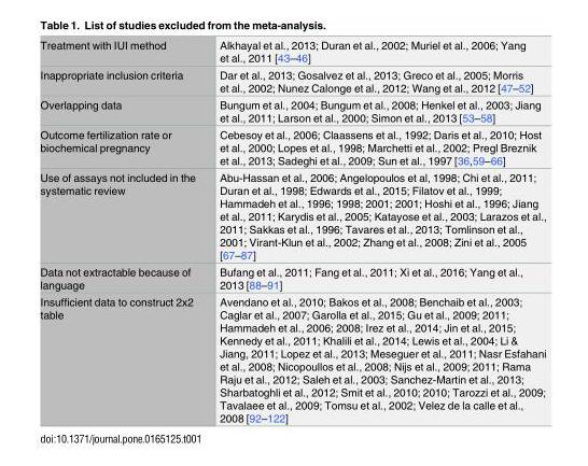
<table><tbody><tr><td>Treatment with IUI method</td><td>Alkhayal et al., 2013; Duran et al., 2002; Muriel et al., 2006; Yang et al., 2011 [43–46]</td></tr><tr><td>Inappropriate inclusion criteria</td><td>Dar et al., 2013; Gosalvez et al., 2013; Greco et al., 2005; Morris et al., 2002; Nunez Calonge et al., 2012; Wang et al., 2012 [47–52]</td></tr><tr><td>Overlapping data</td><td>Bungum et al., 2004; Bungum et al., 2008; Henkel et al., 2003; Jiang et al., 2011; Larson et al., 2000; Simon et al., 2013 [53–58]</td></tr><tr><td>Outcome fertilization rate or biochemical pregnancy</td><td>Cebesoy et al., 2006; Claassens et al., 1992; Daris et al., 2010; Host et al., 2000; Lopes et al., 1998; Marchetti et al., 2002; Pregl Breznik et al., 2013; Sadeghi et al., 2009; Sun et al., 1997 [36,59–66]</td></tr><tr><td>Use of assays not included in the systematic review</td><td>Abu-Hassan et al., 2006; Angelopoulos et al, 1998; Chi et al., 2011; Duran et al., 1998; Edwards et al., 2015; Filatov et al., 1999; Hammadeh et al., 1996; 1998; 2001; 2001; Hoshi et al., 1996; Jiang et al., 2011; Karydis et al., 2005; Katayose et al., 2003; Larazos et al., 2011; Sakkas et al., 1996; Tavares et al., 2013; Tomlinson et al., 2001; Virant-Klun et al., 2002; Zhang et al., 2008; Zini et al., 2005 [67–87]</td></tr><tr><td>Data not extractable because of language</td><td>Bufang et al., 2011; Fang et al., 2011; Xi et al., 2016; Yang et al., 2013 [88–91]</td></tr><tr><td>Insufficient data to construct 2x2 table</td><td>Avendano et al., 2010; Bakos et al., 2008; Benchaib et al., 2003; Caglar et al., 2007; Garolla et al., 2015; Gu et al., 2009; 2011; Hammadeh et al., 2006; 2008; Irez et al., 2014; Jin et al., 2015; Kennedy et al., 2011; Khalili et al., 2014; Lewis et al., 2004; Li &amp; Jiang, 2011; Lopez et al., 2013; Meseguer et al., 2011; Nasr Esfahani et al., 2008; Nicopoullos et al., 2008; Nijs et al., 2009; 2011; Rama Raju et al., 2012; Saleh et al., 2003; Sanchez-Martin et al., 2013; Sharbatoghli et al., 2012; Smit et al., 2010; 2010; Tarozzi et al., 2009; Tavalaee et al., 2009; Tomsu et al., 2002; Velez de la calle et al., 2008 [92–122]</td></tr></tbody></table>